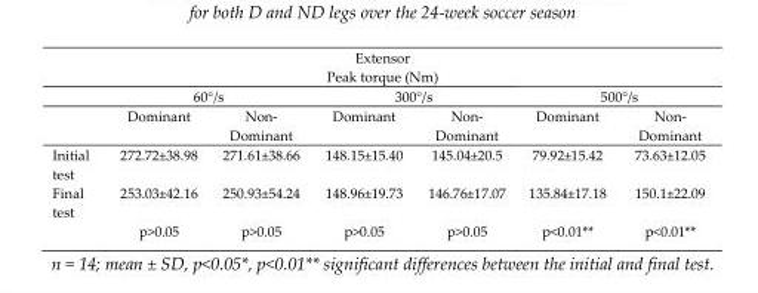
<table><thead><tr><td colspan="7">Extensor Peak torque (Nm)</td></tr><tr><td rowspan="2"></td><td colspan="2">60°/s</td><td colspan="2">300°/s</td><td colspan="2">500°/s</td></tr><tr><td>Dominant</td><td>Non- Dominant</td><td>Dominant</td><td>Non- Dominant</td><td>Dominant</td><td>Non- Dominant</td></tr></thead><tbody><tr><td>Initial test</td><td>272.72±38.98</td><td>271.61±38.66</td><td>148.15±15.40</td><td>145.04±20.5</td><td>79.92±15.42</td><td>73.63±12.05</td></tr><tr><td rowspan="2">Final test</td><td>253.03±42.16</td><td>250.93±54.24</td><td>148.96±19.73</td><td>146.76±17.07</td><td>135.84±17.18</td><td>150.1±22.09</td></tr><tr><td>p&gt;0.05</td><td>p&gt;0.05</td><td>p&gt;0.05</td><td>p&gt;0.05</td><td>p&lt;0.01**</td><td>p&lt;0.01**</td></tr></tbody></table>